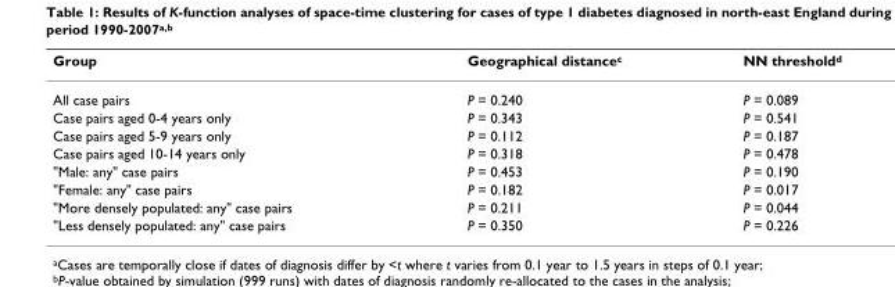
<table><thead><tr><td>Group</td><td>Geographical distance<sup>c</sup></td><td>NN threshold<sup>d</sup></td></tr></thead><tbody><tr><td>All case pairs</td><td>P = 0.240</td><td>P = 0.089</td></tr><tr><td>Case pairs aged 0-4 years only</td><td>P = 0.343</td><td>P = 0.541</td></tr><tr><td>Case pairs aged 5-9 years only</td><td>P = 0.112</td><td>P = 0.187</td></tr><tr><td>Case pairs aged 10-14 years only</td><td>P = 0.318</td><td>P = 0.478</td></tr><tr><td>&quot;Male: any&quot; case pairs</td><td>P = 0.453</td><td>P = 0.190</td></tr><tr><td>&quot;Female: any&quot; case pairs</td><td>P = 0.182</td><td>P = 0.017</td></tr><tr><td>&quot;More densely populated: any&quot; case pairs</td><td>P = 0.211</td><td>P = 0.044</td></tr><tr><td>&quot;Less densely populated: any&quot; case pairs</td><td>P = 0.350</td><td>P = 0.226</td></tr></tbody></table>